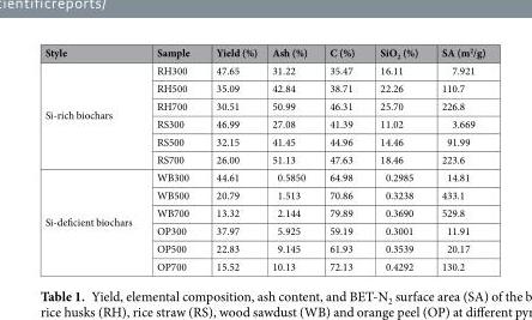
<table><thead><tr><td>Style</td><td>Sample</td><td>Yield (%)</td><td>Ash (%)</td><td>C (%)</td><td>SiO<sub>2</sub> (%)</td><td>SA (m<sup>2</sup>/g)</td></tr></thead><tbody><tr><td rowspan="6">Si-rich biochars</td><td>RH300</td><td>47.65</td><td>31.22</td><td>35.47</td><td>16.11</td><td>7.921</td></tr><tr><td>RH500</td><td>35.09</td><td>42.84</td><td>38.71</td><td>22.26</td><td>110.7</td></tr><tr><td>RH700</td><td>30.51</td><td>50.99</td><td>46.31</td><td>25.70</td><td>226.8</td></tr><tr><td>RS300</td><td>46.99</td><td>27.08</td><td>41.39</td><td>11.02</td><td>3.669</td></tr><tr><td>RS500</td><td>32.15</td><td>41.45</td><td>44.96</td><td>14.46</td><td>91.99</td></tr><tr><td>RS700</td><td>26.00</td><td>51.13</td><td>47.63</td><td>18.46</td><td>223.6</td></tr><tr><td rowspan="6">Si-deficient biochars</td><td>WB300</td><td>44.61</td><td>0.5850</td><td>64.98</td><td>0.2985</td><td>14.81</td></tr><tr><td>WB500</td><td>20.79</td><td>1.513</td><td>70.86</td><td>0.3238</td><td>433.1</td></tr><tr><td>WB700</td><td>13.32</td><td>2.144</td><td>79.89</td><td>0.3690</td><td>529.8</td></tr><tr><td>OP300</td><td>37.97</td><td>5.925</td><td>59.19</td><td>0.3001</td><td>11.91</td></tr><tr><td>OP500</td><td>22.83</td><td>9.145</td><td>61.93</td><td>0.3539</td><td>20.17</td></tr><tr><td>OP700</td><td>15.52</td><td>10.13</td><td>72.13</td><td>0.4292</td><td>130.2</td></tr></tbody></table>